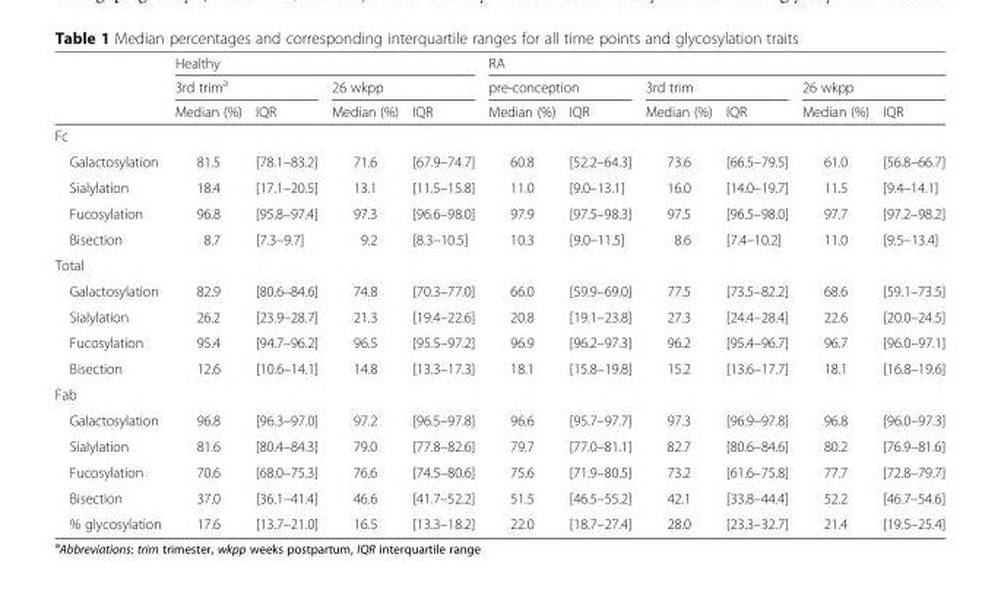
<table><thead><tr><td rowspan="3"></td><td colspan="4">Healthy</td><td colspan="6">RA</td></tr><tr><td colspan="2">3rd trim<sup>a</sup></td><td colspan="2">26 wkpp</td><td colspan="2">pre-conception</td><td colspan="2">3rd trim</td><td colspan="2">26 wkpp</td></tr><tr><td>Median (%)</td><td>IQR</td><td>Median (%)</td><td>IQR</td><td>Median (%)</td><td>IQR</td><td>Median (%)</td><td>IQR</td><td>Median (%)</td><td>IQR</td></tr></thead><tbody><tr><td colspan="11">Fc</td></tr><tr><td>Galactosylation</td><td>81.5</td><td>[78.1–83.2]</td><td>71.6</td><td>[67.9–74.7]</td><td>60.8</td><td>[52.2–64.3]</td><td>73.6</td><td>[66.5–79.5]</td><td>61.0</td><td>[56.8–66.7]</td></tr><tr><td>Sialylation</td><td>18.4</td><td>[17.1–20.5]</td><td>13.1</td><td>[11.5–15.8]</td><td>11.0</td><td>[9.0–13.1]</td><td>16.0</td><td>[14.0–19.7]</td><td>11.5</td><td>[9.4–14.1]</td></tr><tr><td>Fucosylation</td><td>96.8</td><td>[95.8–97.4]</td><td>97.3</td><td>[96.6–98.0]</td><td>97.9</td><td>[97.5–98.3]</td><td>97.5</td><td>[96.5–98.0]</td><td>97.7</td><td>[97.2–98.2]</td></tr><tr><td>Bisection</td><td>8.7</td><td>[7.3–9.7]</td><td>9.2</td><td>[8.3–10.5]</td><td>10.3</td><td>[9.0–11.5]</td><td>8.6</td><td>[7.4–10.2]</td><td>11.0</td><td>[9.5–13.4]</td></tr><tr><td colspan="11">Total</td></tr><tr><td>Galactosylation</td><td>82.9</td><td>[80.6–84.6]</td><td>74.8</td><td>[70.3–77.0]</td><td>66.0</td><td>[59.9–69.0]</td><td>77.5</td><td>[73.5–82.2]</td><td>68.6</td><td>[59.1–73.5]</td></tr><tr><td>Sialylation</td><td>26.2</td><td>[23.9–28.7]</td><td>21.3</td><td>[19.4–22.6]</td><td>20.8</td><td>[19.1–23.8]</td><td>27.3</td><td>[24.4–28.4]</td><td>22.6</td><td>[20.0–24.5]</td></tr><tr><td>Fucosylation</td><td>95.4</td><td>[94.7–96.2]</td><td>96.5</td><td>[95.5–97.2]</td><td>96.9</td><td>[96.2–97.3]</td><td>96.2</td><td>[95.4–96.7]</td><td>96.7</td><td>[96.0–97.1]</td></tr><tr><td>Bisection</td><td>12.6</td><td>[10.6–14.1]</td><td>14.8</td><td>[13.3–17.3]</td><td>18.1</td><td>[15.8–19.8]</td><td>15.2</td><td>[13.6–17.7]</td><td>18.1</td><td>[16.8–19.6]</td></tr><tr><td colspan="11">Fab</td></tr><tr><td>Galactosylation</td><td>96.8</td><td>[96.3–97.0]</td><td>97.2</td><td>[96.5–97.8]</td><td>96.6</td><td>[95.7–97.7]</td><td>97.3</td><td>[96.9–97.8]</td><td>96.8</td><td>[96.0–97.3]</td></tr><tr><td>Sialylation</td><td>81.6</td><td>[80.4–84.3]</td><td>79.0</td><td>[77.8–82.6]</td><td>79.7</td><td>[77.0–81.1]</td><td>82.7</td><td>[80.6–84.6]</td><td>80.2</td><td>[76.9–81.6]</td></tr><tr><td>Fucosylation</td><td>70.6</td><td>[68.0–75.3]</td><td>76.6</td><td>[74.5–80.6]</td><td>75.6</td><td>[71.9–80.5]</td><td>73.2</td><td>[61.6–75.8]</td><td>77.7</td><td>[72.8–79.7]</td></tr><tr><td>Bisection</td><td>37.0</td><td>[36.1–41.4]</td><td>46.6</td><td>[41.7–52.2]</td><td>51.5</td><td>[46.5–55.2]</td><td>42.1</td><td>[33.8–44.4]</td><td>52.2</td><td>[46.7–54.6]</td></tr><tr><td>% glycosylation</td><td>17.6</td><td>[13.7–21.0]</td><td>16.5</td><td>[13.3–18.2]</td><td>22.0</td><td>[18.7–27.4]</td><td>28.0</td><td>[23.3–32.7]</td><td>21.4</td><td>[19.5–25.4]</td></tr></tbody></table>